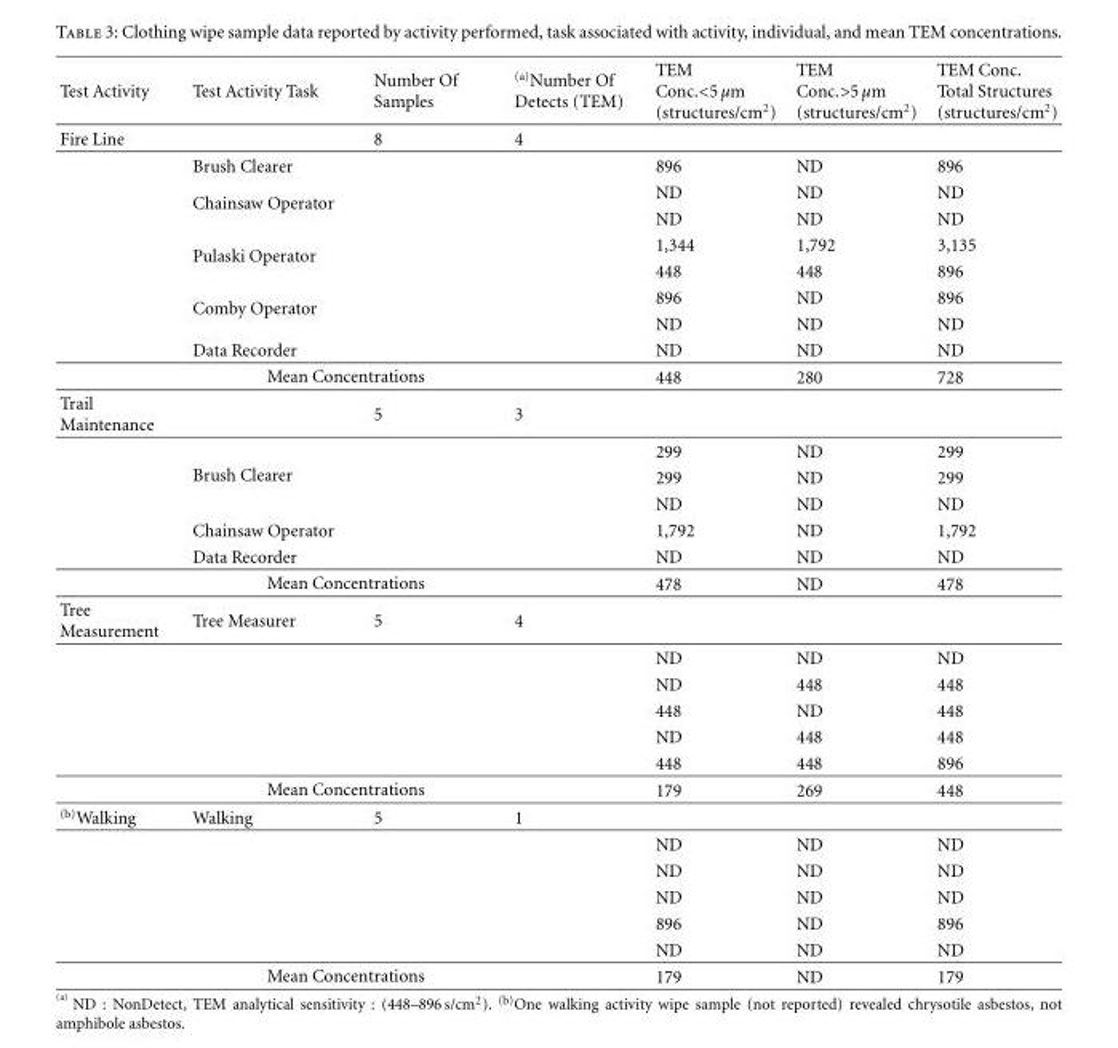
<table><thead><tr><td>Test Activity</td><td>Test Activity Task</td><td>Number Of Samples</td><td><sup>(a)</sup>Number Of Detects (TEM)</td><td>TEM Conc.&lt;5 µm (structures/cm<sup>2</sup>)</td><td>TEM Conc.&gt;5 µm (structures/cm<sup>2</sup>)</td><td>TEM Conc. Total Structures (structures/cm<sup>2</sup>)</td></tr></thead><tbody><tr><td rowspan="10">Fire Line</td><td></td><td>8</td><td>4</td><td></td><td></td><td></td></tr><tr><td>Brush Clearer</td><td></td><td></td><td>896</td><td>ND</td><td>896</td></tr><tr><td rowspan="2">Chainsaw Operator</td><td></td><td></td><td>ND</td><td>ND</td><td>ND</td></tr><tr><td></td><td></td><td>ND</td><td>ND</td><td>ND</td></tr><tr><td rowspan="2">Pulaski Operator</td><td></td><td></td><td>1,344</td><td>1,792</td><td>3,135</td></tr><tr><td></td><td></td><td>448</td><td>448</td><td>896</td></tr><tr><td rowspan="2">Comby Operator</td><td></td><td></td><td>896</td><td>ND</td><td>896</td></tr><tr><td></td><td></td><td>ND</td><td>ND</td><td>ND</td></tr><tr><td>Data Recorder</td><td></td><td></td><td>ND</td><td>ND</td><td>ND</td></tr><tr><td colspan="2">Mean Concentrations</td><td></td><td>448</td><td>280</td><td>728</td></tr><tr><td rowspan="7">Trail Maintenance</td><td></td><td>5</td><td>3</td><td></td><td></td><td></td></tr><tr><td rowspan="3">Brush Clearer</td><td></td><td></td><td>299</td><td>ND</td><td>299</td></tr><tr><td></td><td></td><td>299</td><td>ND</td><td>299</td></tr><tr><td></td><td></td><td>ND</td><td>ND</td><td>ND</td></tr><tr><td>Chainsaw Operator</td><td></td><td></td><td>1,792</td><td>ND</td><td>1,792</td></tr><tr><td>Data Recorder</td><td></td><td></td><td>ND</td><td>ND</td><td>ND</td></tr><tr><td colspan="2">Mean Concentrations</td><td></td><td>478</td><td>ND</td><td>478</td></tr><tr><td rowspan="7">Tree Measurement</td><td>Tree Measurer</td><td>5</td><td>4</td><td></td><td></td><td></td></tr><tr><td></td><td></td><td></td><td>ND</td><td>ND</td><td>ND</td></tr><tr><td></td><td></td><td></td><td>ND</td><td>448</td><td>448</td></tr><tr><td></td><td></td><td></td><td>448</td><td>ND</td><td>448</td></tr><tr><td></td><td></td><td></td><td>ND</td><td>448</td><td>448</td></tr><tr><td></td><td></td><td></td><td>448</td><td>448</td><td>896</td></tr><tr><td colspan="2">Mean Concentrations</td><td></td><td>179</td><td>269</td><td>448</td></tr><tr><td rowspan="7"><sup>(b)</sup>Walking</td><td>Walking</td><td>5</td><td>1</td><td></td><td></td><td></td></tr><tr><td></td><td></td><td></td><td>ND</td><td>ND</td><td>ND</td></tr><tr><td></td><td></td><td></td><td>ND</td><td>ND</td><td>ND</td></tr><tr><td></td><td></td><td></td><td>ND</td><td>ND</td><td>ND</td></tr><tr><td></td><td></td><td></td><td>896</td><td>ND</td><td>896</td></tr><tr><td></td><td></td><td></td><td>ND</td><td>ND</td><td>ND</td></tr><tr><td colspan="2">Mean Concentrations</td><td></td><td>179</td><td>ND</td><td>179</td></tr></tbody></table>